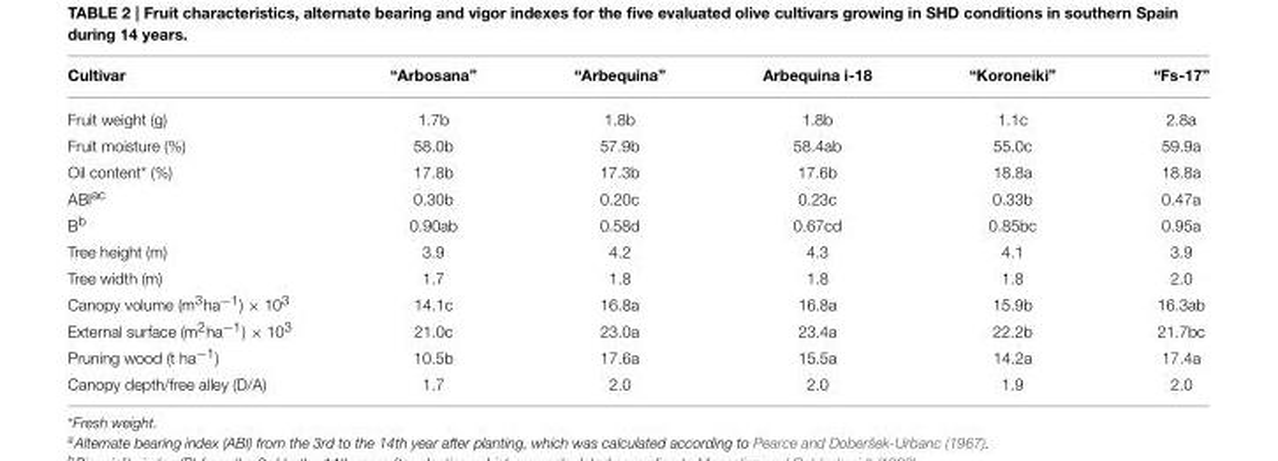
<table><thead><tr><td>Cultivar</td><td>“Arbosana”</td><td>“Arbequina”</td><td>Arbequina i-18</td><td>“Koroneiki”</td><td>“Fs-17”</td></tr></thead><tbody><tr><td>Fruit weight (g)</td><td>1.7b</td><td>1.8b</td><td>1.8b</td><td>1.1c</td><td>2.8a</td></tr><tr><td>Fruit moisture (%)</td><td>58.0b</td><td>57.9b</td><td>58.4ab</td><td>55.0c</td><td>59.9a</td></tr><tr><td>Oil content* (%)</td><td>17.8b</td><td>17.3b</td><td>17.6b</td><td>18.8a</td><td>18.8a</td></tr><tr><td>ABI<sup>ac</sup></td><td>0.30b</td><td>0.20c</td><td>0.23c</td><td>0.33b</td><td>0.47a</td></tr><tr><td>B<sup>b</sup></td><td>0.90ab</td><td>0.58d</td><td>0.67cd</td><td>0.85bc</td><td>0.95a</td></tr><tr><td>Tree height (m)</td><td>3.9</td><td>4.2</td><td>4.3</td><td>4.1</td><td>3.9</td></tr><tr><td>Tree width (m)</td><td>1.7</td><td>1.8</td><td>1.8</td><td>1.8</td><td>2.0</td></tr><tr><td>Canopy volume (m<sup>3</sup>ha<sup>−1</sup>) × 10<sup>3</sup></td><td>14.1c</td><td>16.8a</td><td>16.8a</td><td>15.9b</td><td>16.3ab</td></tr><tr><td>External surface (m<sup>2</sup>ha<sup>−1</sup>) × 10<sup>3</sup></td><td>21.0c</td><td>23.0a</td><td>23.4a</td><td>22.2b</td><td>21.7bc</td></tr><tr><td>Pruning wood (t ha<sup>−1</sup>)</td><td>10.5b</td><td>17.6a</td><td>15.5a</td><td>14.2a</td><td>17.4a</td></tr><tr><td>Canopy depth/free alley (D/A)</td><td>1.7</td><td>2.0</td><td>2.0</td><td>1.9</td><td>2.0</td></tr></tbody></table>